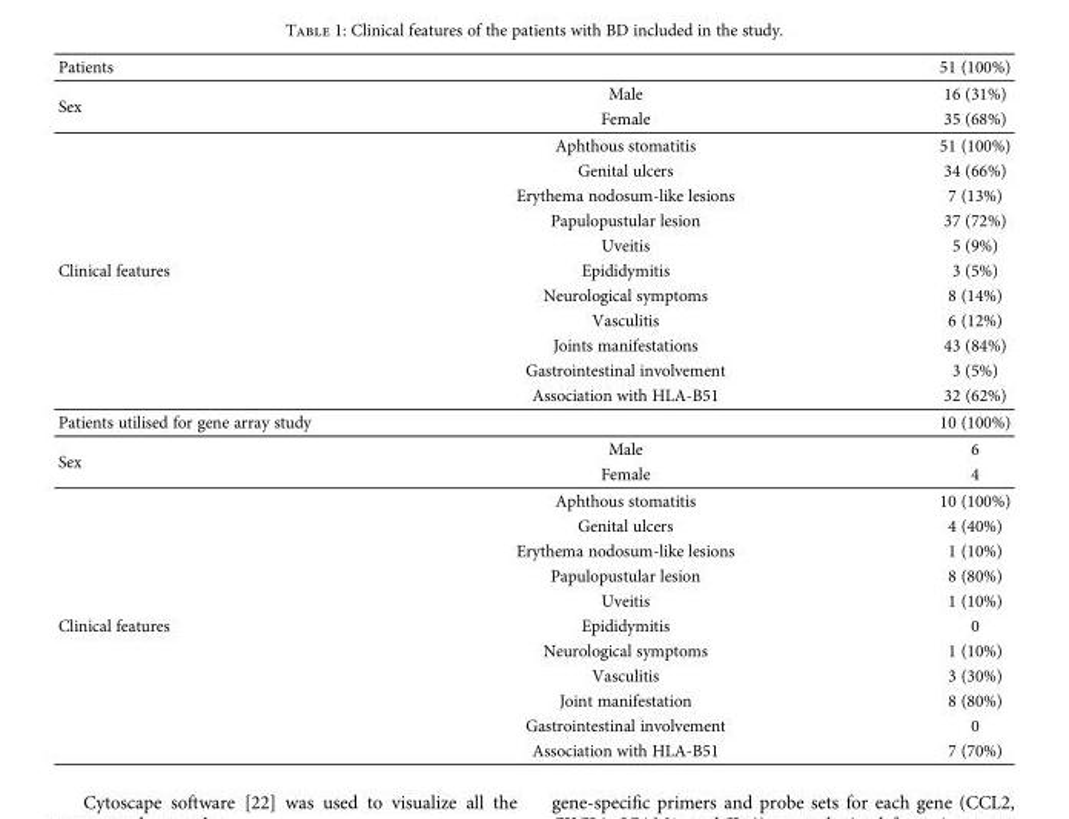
<table><tbody><tr><td>Patients</td><td></td><td>51 (100%)</td></tr><tr><td rowspan="2">Sex</td><td>Male</td><td>16 (31%)</td></tr><tr><td>Female</td><td>35 (68%)</td></tr><tr><td rowspan="11">Clinical features</td><td>Aphthous stomatitis</td><td>51 (100%)</td></tr><tr><td>Genital ulcers</td><td>34 (66%)</td></tr><tr><td>Erythema nodosum-like lesions</td><td>7 (13%)</td></tr><tr><td>Papulopustular lesion</td><td>37 (72%)</td></tr><tr><td>Uveitis</td><td>5 (9%)</td></tr><tr><td>Epididymitis</td><td>3 (5%)</td></tr><tr><td>Neurological symptoms</td><td>8 (14%)</td></tr><tr><td>Vasculitis</td><td>6 (12%)</td></tr><tr><td>Joints manifestations</td><td>43 (84%)</td></tr><tr><td>Gastrointestinal involvement</td><td>3 (5%)</td></tr><tr><td>Association with HLA-B51</td><td>32 (62%)</td></tr><tr><td>Patients utilised for gene array study</td><td></td><td>10 (100%)</td></tr><tr><td rowspan="2">Sex</td><td>Male</td><td>6</td></tr><tr><td>Female</td><td>4</td></tr><tr><td rowspan="11">Clinical features</td><td>Aphthous stomatitis</td><td>10 (100%)</td></tr><tr><td>Genital ulcers</td><td>4 (40%)</td></tr><tr><td>Erythema nodosum-like lesions</td><td>1 (10%)</td></tr><tr><td>Papulopustular lesion</td><td>8 (80%)</td></tr><tr><td>Uveitis</td><td>1 (10%)</td></tr><tr><td>Epididymitis</td><td>0</td></tr><tr><td>Neurological symptoms</td><td>1 (10%)</td></tr><tr><td>Vasculitis</td><td>3 (30%)</td></tr><tr><td>Joint manifestation</td><td>8 (80%)</td></tr><tr><td>Gastrointestinal involvement</td><td>0</td></tr><tr><td>Association with HLA-B51</td><td>7 (70%)</td></tr></tbody></table>